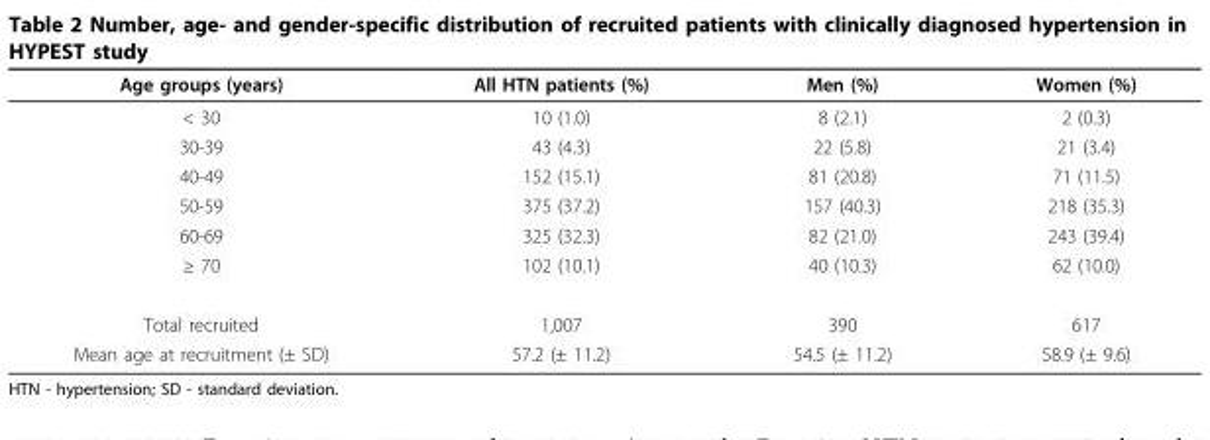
<table><thead><tr><td>Age groups (years)</td><td>All HTN patients (%)</td><td>Men (%)</td><td>Women (%)</td></tr></thead><tbody><tr><td>&lt; 30</td><td>10 (1.0)</td><td>8 (2.1)</td><td>2 (0.3)</td></tr><tr><td>30-39</td><td>43 (4.3)</td><td>22 (5.8)</td><td>21 (3.4)</td></tr><tr><td>40-49</td><td>152 (15.1)</td><td>81 (20.8)</td><td>71 (11.5)</td></tr><tr><td>50-59</td><td>375 (37.2)</td><td>157 (40.3)</td><td>218 (35.3)</td></tr><tr><td>60-69</td><td>325 (32.3)</td><td>82 (21.0)</td><td>243 (39.4)</td></tr><tr><td>≥ 70</td><td>102 (10.1)</td><td>40 (10.3)</td><td>62 (10.0)</td></tr><tr><td>Total recruited</td><td>1,007</td><td>390</td><td>617</td></tr><tr><td>Mean age at recruitment (± SD)</td><td>57.2 (± 11.2)</td><td>54.5 (± 11.2)</td><td>58.9 (± 9.6)</td></tr></tbody></table>